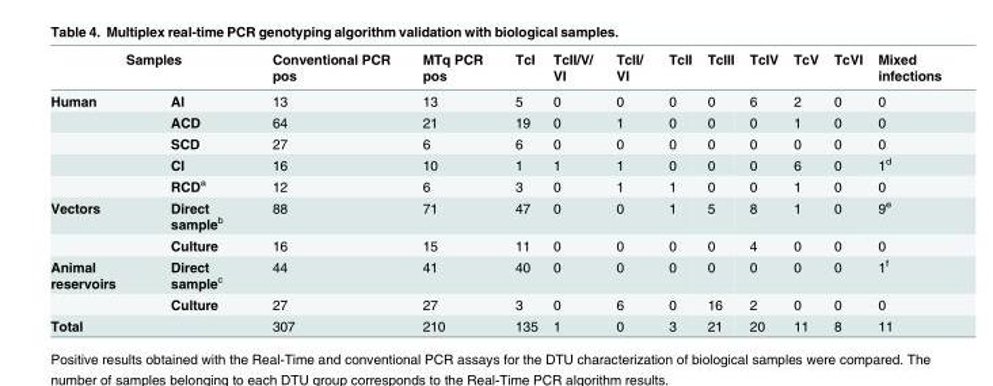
<table><thead><tr><td colspan="2">Samples</td><td rowspan="2">Conventional PCR pos 13</td><td rowspan="2">MTq PCR pos 13</td><td rowspan="2">TcI 5</td><td rowspan="2">TcII/V/ VI 0</td><td rowspan="2">TcII/ VI 0</td><td rowspan="2">TcII 0</td><td rowspan="2">TcIII 0</td><td rowspan="2">TcIV 6</td><td rowspan="2">TcV 2</td><td rowspan="2">TcVI 0</td><td rowspan="2">Mixed infections 0</td></tr><tr><td>Human</td><td>AI</td></tr></thead><tbody><tr><td></td><td>ACD</td><td>64</td><td>21</td><td>19</td><td>0</td><td>1</td><td>0</td><td>0</td><td>0</td><td>1</td><td>0</td><td>0</td></tr><tr><td></td><td>SCD</td><td>27</td><td>6</td><td>6</td><td>0</td><td>0</td><td>0</td><td>0</td><td>0</td><td>0</td><td>0</td><td>0</td></tr><tr><td></td><td>CI</td><td>16</td><td>10</td><td>1</td><td>1</td><td>1</td><td>0</td><td>0</td><td>0</td><td>6</td><td>0</td><td>1<sup>d</sup></td></tr><tr><td></td><td>RCD<sup>a</sup></td><td>12</td><td>6</td><td>3</td><td>0</td><td>1</td><td>1</td><td>0</td><td>0</td><td>1</td><td>0</td><td>0</td></tr><tr><td rowspan="2">Vectors</td><td>Direct sample<sup>b</sup></td><td>88</td><td>71</td><td>47</td><td>0</td><td>0</td><td>1</td><td>5</td><td>8</td><td>1</td><td>0</td><td>9<sup>e</sup></td></tr><tr><td>Culture</td><td>16</td><td>15</td><td>11</td><td>0</td><td>0</td><td>0</td><td>0</td><td>4</td><td>0</td><td>0</td><td>0</td></tr><tr><td rowspan="2">Animal reservoirs</td><td>Direct sample<sup>c</sup></td><td>44</td><td>41</td><td>40</td><td>0</td><td>0</td><td>0</td><td>0</td><td>0</td><td>0</td><td>0</td><td>1<sup>f</sup></td></tr><tr><td>Culture</td><td>27</td><td>27</td><td>3</td><td>0</td><td>6</td><td>0</td><td>16</td><td>2</td><td>0</td><td>0</td><td>0</td></tr><tr><td colspan="2">Total</td><td>307</td><td>210</td><td>135</td><td>1</td><td>0</td><td>3</td><td>21</td><td>20</td><td>11</td><td>8</td><td>11</td></tr></tbody></table>